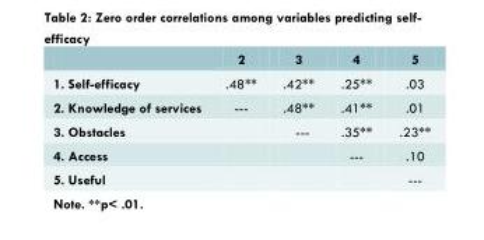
<table><thead><tr><td></td><td>2</td><td>3</td><td>4</td><td>5</td></tr></thead><tbody><tr><td>1. Self-efficacy</td><td>.48**</td><td>.42**</td><td>.25**</td><td>.03</td></tr><tr><td>2. Knowledge of services</td><td>---</td><td>.48**</td><td>.41**</td><td>.01</td></tr><tr><td>3. Obstacles</td><td></td><td>---</td><td>.35**</td><td>.23**</td></tr><tr><td>4. Access</td><td></td><td></td><td>---</td><td>.10</td></tr><tr><td>5. Useful</td><td></td><td></td><td></td><td>---</td></tr></tbody></table>